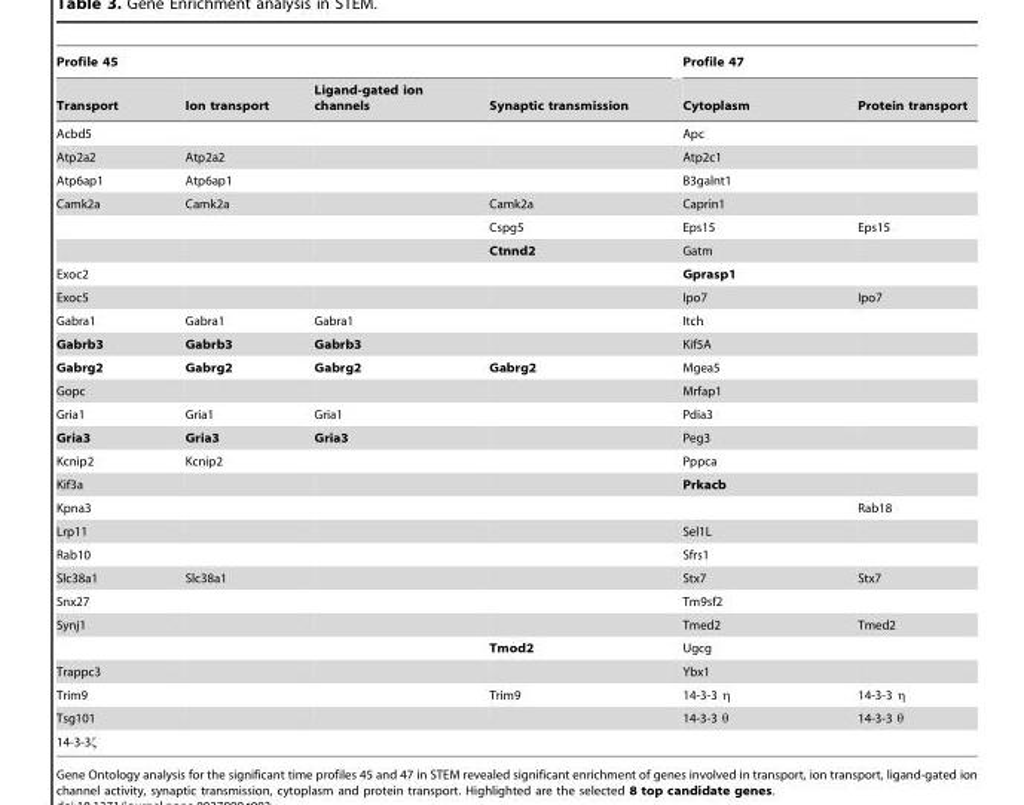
<table><thead><tr><td colspan="4">Profile 45</td><td colspan="2">Profile 47</td></tr><tr><td>Transport</td><td>Ion transport</td><td>Ligand-gated ion channels</td><td>Synaptic transmission</td><td>Cytoplasm</td><td>Protein transport</td></tr></thead><tbody><tr><td>Acbd5</td><td></td><td></td><td></td><td>Apc</td><td></td></tr><tr><td>Atp2a2</td><td>Atp2a2</td><td></td><td></td><td>Atp2c1</td><td></td></tr><tr><td>Atp6ap1</td><td>Atp6ap1</td><td></td><td></td><td>B3galnt1</td><td></td></tr><tr><td rowspan="3">Camk2a</td><td>Camk2a</td><td></td><td>Camk2a</td><td>Caprin1</td><td></td></tr><tr><td></td><td></td><td>Cspg5</td><td>Eps15</td><td>Eps15</td></tr><tr><td></td><td></td><td>Ctnnd2</td><td>Gatm</td><td></td></tr><tr><td>Exoc2</td><td></td><td></td><td></td><td>Gprasp1</td><td></td></tr><tr><td>Exoc5</td><td></td><td></td><td></td><td>Ipo7</td><td>Ipo7</td></tr><tr><td>Gabra1</td><td>Gabra1</td><td>Gabra1</td><td></td><td>Itch</td><td></td></tr><tr><td>Gabrb3</td><td>Gabrb3</td><td>Gabrb3</td><td></td><td>Kif5A</td><td></td></tr><tr><td>Gabrg2</td><td>Gabrg2</td><td>Gabrg2</td><td>Gabrg2</td><td>Mgea5</td><td></td></tr><tr><td>Gopc</td><td></td><td></td><td></td><td>Mrfap1</td><td></td></tr><tr><td>Gria1</td><td>Gria1</td><td>Gria1</td><td></td><td>Pdia3</td><td></td></tr><tr><td>Gria3</td><td>Gria3</td><td>Gria3</td><td></td><td>Peg3</td><td></td></tr><tr><td>Kcnip2</td><td>Kcnip2</td><td></td><td></td><td>Pppca</td><td></td></tr><tr><td>Kif3a</td><td></td><td></td><td></td><td>Prkacb</td><td></td></tr><tr><td>Kpna3</td><td></td><td></td><td></td><td></td><td>Rab18</td></tr><tr><td>Lrp11</td><td></td><td></td><td></td><td>Sel1L</td><td></td></tr><tr><td>Rab10</td><td></td><td></td><td></td><td>Sfrs1</td><td></td></tr><tr><td>Slc38a1</td><td>Slc38a1</td><td></td><td></td><td>Stx7</td><td>Stx7</td></tr><tr><td>Snx27</td><td></td><td></td><td></td><td>Tm9sf2</td><td></td></tr><tr><td rowspan="2">Synj1</td><td></td><td></td><td></td><td>Tmed2</td><td>Tmed2</td></tr><tr><td></td><td></td><td>Tmod2</td><td>Ugcg</td><td></td></tr><tr><td>Trappc3</td><td></td><td></td><td></td><td>Ybx1</td><td></td></tr><tr><td>Trim9</td><td></td><td></td><td>Trim9</td><td>14-3-3 η</td><td>14-3-3 η</td></tr><tr><td>Tsg101</td><td></td><td></td><td></td><td>14-3-3 θ</td><td>14-3-3 θ</td></tr><tr><td>14-3-3ζ</td><td></td><td></td><td></td><td></td><td></td></tr></tbody></table>